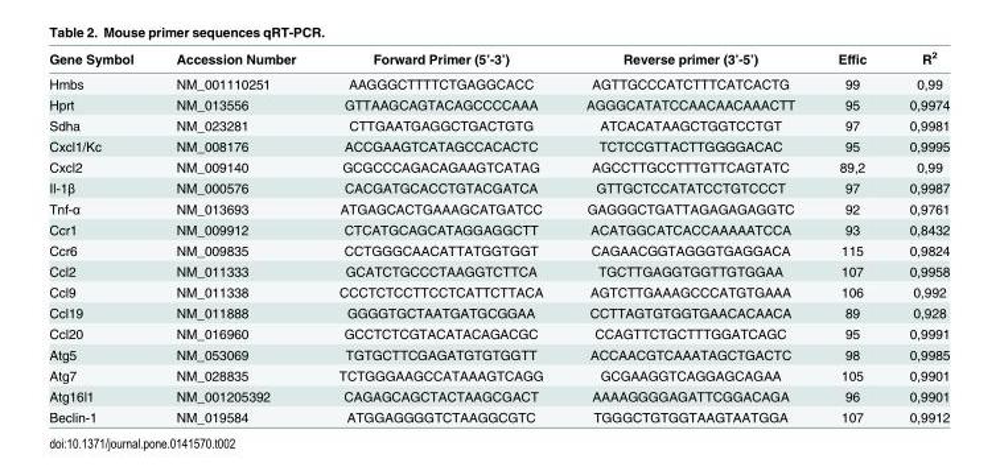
<table><thead><tr><td>Gene Symbol</td><td>Accession Number</td><td>Forward Primer (5’-3’)</td><td>Reverse primer (3’-5’)</td><td>Effic</td><td>R<sup>2</sup></td></tr></thead><tbody><tr><td>Hmbs</td><td>NM_001110251</td><td>AAGGGCTTTTCTGAGGCACC</td><td>AGTTGCCCATCTTTCATCACTG</td><td>99</td><td>0,99</td></tr><tr><td>Hprt</td><td>NM_013556</td><td>GTTAAGCAGTACAGCCCCAAA</td><td>AGGGCATATCCAACAACAAACTT</td><td>95</td><td>0,9974</td></tr><tr><td>Sdha</td><td>NM_023281</td><td>CTTGAATGAGGCTGACTGTG</td><td>ATCACATAAGCTGGTCCTGT</td><td>97</td><td>0,9981</td></tr><tr><td>Cxcl1/Kc</td><td>NM_008176</td><td>ACCGAAGTCATAGCCACACTC</td><td>TCTCCGTTACTTGGGGACAC</td><td>95</td><td>0,9995</td></tr><tr><td>Cxcl2</td><td>NM_009140</td><td>GCGCCCAGACAGAAGTCATAG</td><td>AGCCTTGCCTTTGTTCAGTATC</td><td>89,2</td><td>0,99</td></tr><tr><td>Il-1β</td><td>NM_000576</td><td>CACGATGCACCTGTACGATCA</td><td>GTTGCTCCATATCCTGTCCCT</td><td>97</td><td>0,9987</td></tr><tr><td>Tnf-α</td><td>NM_013693</td><td>ATGAGCACTGAAAGCATGATCC</td><td>GAGGGCTGATTAGAGAGAGGTC</td><td>92</td><td>0,9761</td></tr><tr><td>Ccr1</td><td>NM_009912</td><td>CTCATGCAGCATAGGAGGCTT</td><td>ACATGGCATCACCAAAAATCCA</td><td>93</td><td>0,8432</td></tr><tr><td>Ccr6</td><td>NM_009835</td><td>CCTGGGCAACATTATGGTGGT</td><td>CAGAACGGTAGGGTGAGGACA</td><td>115</td><td>0,9824</td></tr><tr><td>Ccl2</td><td>NM_011333</td><td>GCATCTGCCCTAAGGTCTTCA</td><td>TGCTTGAGGTGGTTGTGGAA</td><td>107</td><td>0,9958</td></tr><tr><td>Ccl9</td><td>NM_011338</td><td>CCCTCTCCTTCCTCATTCTTACA</td><td>AGTCTTGAAAGCCCATGTGAAA</td><td>106</td><td>0,992</td></tr><tr><td>Ccl19</td><td>NM_011888</td><td>GGGGTGCTAATGATGCGGAA</td><td>CCTTAGTGTGGTGAACACAACA</td><td>89</td><td>0,928</td></tr><tr><td>Ccl20</td><td>NM_016960</td><td>GCCTCTCGTACATACAGACGC</td><td>CCAGTTCTGCTTTGGATCAGC</td><td>95</td><td>0,9991</td></tr><tr><td>Atg5</td><td>NM_053069</td><td>TGTGCTTCGAGATGTGTGGTT</td><td>ACCAACGTCAAATAGCTGACTC</td><td>98</td><td>0,9985</td></tr><tr><td>Atg7</td><td>NM_028835</td><td>TCTGGGAAGCCATAAAGTCAGG</td><td>GCGAAGGTCAGGAGCAGAA</td><td>105</td><td>0,9901</td></tr><tr><td>Atg16l1</td><td>NM_001205392</td><td>CAGAGCAGCTACTAAGCGACT</td><td>AAAAGGGGAGATTCGGACAGA</td><td>96</td><td>0,9901</td></tr><tr><td>Beclin-1</td><td>NM_019584</td><td>ATGGAGGGGTCTAAGGCGTC</td><td>TGGGCTGTGGTAAGTAATGGA</td><td>107</td><td>0,9912</td></tr></tbody></table>